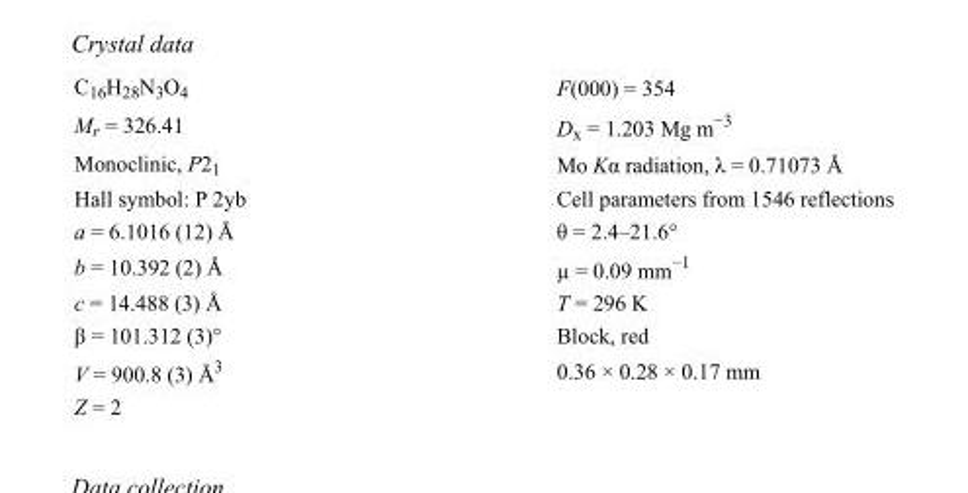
<table><tbody><tr><td>C<sub>16</sub>H<sub>28</sub>N<sub>3</sub>O<sub>4</sub></td><td>F(000) = 354</td></tr><tr><td>M<sub>r</sub> = 326.41</td><td>D<sub>x</sub> = 1.203 Mg m<sup>−3</sup></td></tr><tr><td>Monoclinic, P2<sub>1</sub></td><td>Mo Kα radiation, λ = 0.71073 Å</td></tr><tr><td>Hall symbol: P 2yb</td><td>Cell parameters from 1546 reflections</td></tr><tr><td>a = 6.1016 (12) Å</td><td>θ = 2.4–21.6°</td></tr><tr><td>b = 10.392 (2) Å</td><td>µ = 0.09 mm<sup>−1</sup></td></tr><tr><td>c = 14.488 (3) Å</td><td>T = 296 K</td></tr><tr><td>β = 101.312 (3)°</td><td>Block, red</td></tr><tr><td>V = 900.8 (3) Å<sup>3</sup></td><td>0.36 × 0.28 × 0.17 mm</td></tr><tr><td>Z = 2</td><td></td></tr></tbody></table>